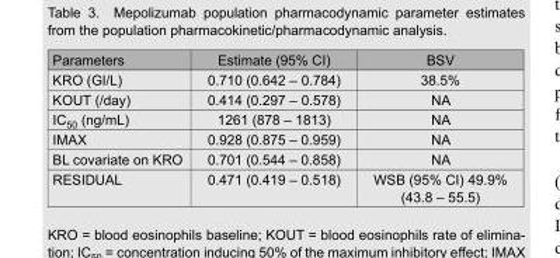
<table><thead><tr><td>Parameters</td><td>Estimate (95% CI)</td><td>BSV</td></tr></thead><tbody><tr><td>KRO (GI/L)</td><td>0.710 (0.642 – 0.784)</td><td>38.5%</td></tr><tr><td>KOUT (/day)</td><td>0.414 (0.297 – 0.578)</td><td>NA</td></tr><tr><td>IC<sub>50</sub> (ng/mL)</td><td>1261 (878 – 1813)</td><td>NA</td></tr><tr><td>IMAX</td><td>0.928 (0.875 – 0.959)</td><td>NA</td></tr><tr><td>BL covariate on KRO</td><td>0.701 (0.544 – 0.858)</td><td>NA</td></tr><tr><td>RESIDUAL</td><td>0.471 (0.419 – 0.518)</td><td>WSB (95% CI) 49.9% (43.8 – 55.5)</td></tr></tbody></table>